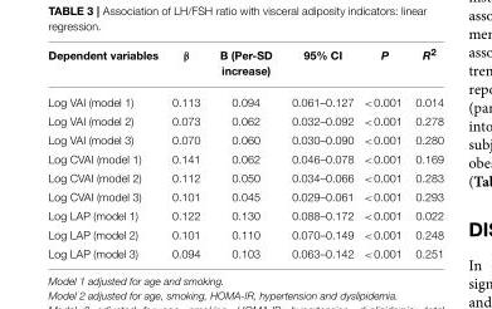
<table><thead><tr><td>Dependent variables</td><td>β</td><td>B (Per-SD increase)</td><td>95% CI</td><td>P</td><td>R<sup>2</sup></td></tr></thead><tbody><tr><td>Log VAI (model 1)</td><td>0.113</td><td>0.094</td><td>0.061–0.127</td><td>&lt;0.001</td><td>0.014</td></tr><tr><td>Log VAI (model 2)</td><td>0.073</td><td>0.062</td><td>0.032–0.092</td><td>&lt;0.001</td><td>0.278</td></tr><tr><td>Log VAI (model 3)</td><td>0.070</td><td>0.060</td><td>0.030–0.090</td><td>&lt;0.001</td><td>0.280</td></tr><tr><td>Log CVAI (model 1)</td><td>0.141</td><td>0.062</td><td>0.046–0.078</td><td>&lt;0.001</td><td>0.169</td></tr><tr><td>Log CVAI (model 2)</td><td>0.112</td><td>0.050</td><td>0.034–0.066</td><td>&lt;0.001</td><td>0.283</td></tr><tr><td>Log CVAI (model 3)</td><td>0.101</td><td>0.045</td><td>0.029–0.061</td><td>&lt;0.001</td><td>0.293</td></tr><tr><td>Log LAP (model 1)</td><td>0.122</td><td>0.130</td><td>0.088–0.172</td><td>&lt;0.001</td><td>0.022</td></tr><tr><td>Log LAP (model 2)</td><td>0.101</td><td>0.110</td><td>0.070–0.149</td><td>&lt;0.001</td><td>0.248</td></tr><tr><td>Log LAP (model 3)</td><td>0.094</td><td>0.103</td><td>0.063–0.142</td><td>&lt;0.001</td><td>0.251</td></tr></tbody></table>